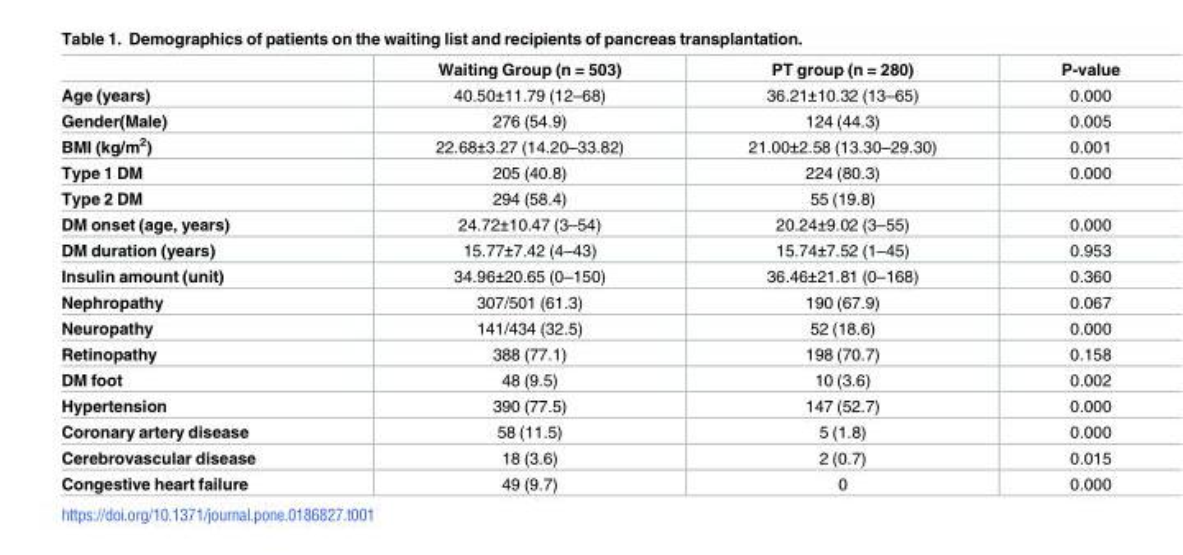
<table><thead><tr><td></td><td>Waiting Group (n = 503)</td><td>PT group (n = 280)</td><td>P-value</td></tr></thead><tbody><tr><td>Age (years)</td><td>40.50±11.79 (12–68)</td><td>36.21±10.32 (13–65)</td><td>0.000</td></tr><tr><td>Gender(Male)</td><td>276 (54.9)</td><td>124 (44.3)</td><td>0.005</td></tr><tr><td>BMI (kg/m<sup>2</sup>)</td><td>22.68±3.27 (14.20–33.82)</td><td>21.00±2.58 (13.30–29.30)</td><td>0.001</td></tr><tr><td>Type 1 DM</td><td>205 (40.8)</td><td>224 (80.3)</td><td>0.000</td></tr><tr><td>Type 2 DM</td><td>294 (58.4)</td><td>55 (19.8)</td><td></td></tr><tr><td>DM onset (age, years)</td><td>24.72±10.47 (3–54)</td><td>20.24±9.02 (3–55)</td><td>0.000</td></tr><tr><td>DM duration (years)</td><td>15.77±7.42 (4–43)</td><td>15.74±7.52 (1–45)</td><td>0.953</td></tr><tr><td>Insulin amount (unit)</td><td>34.96±20.65 (0–150)</td><td>36.46±21.81 (0–168)</td><td>0.360</td></tr><tr><td>Nephropathy</td><td>307/501 (61.3)</td><td>190 (67.9)</td><td>0.067</td></tr><tr><td>Neuropathy</td><td>141/434 (32.5)</td><td>52 (18.6)</td><td>0.000</td></tr><tr><td>Retinopathy</td><td>388 (77.1)</td><td>198 (70.7)</td><td>0.158</td></tr><tr><td>DM foot</td><td>48 (9.5)</td><td>10 (3.6)</td><td>0.002</td></tr><tr><td>Hypertension</td><td>390 (77.5)</td><td>147 (52.7)</td><td>0.000</td></tr><tr><td>Coronary artery disease</td><td>58 (11.5)</td><td>5 (1.8)</td><td>0.000</td></tr><tr><td>Cerebrovascular disease</td><td>18 (3.6)</td><td>2 (0.7)</td><td>0.015</td></tr><tr><td>Congestive heart failure</td><td>49 (9.7)</td><td>0</td><td>0.000</td></tr></tbody></table>